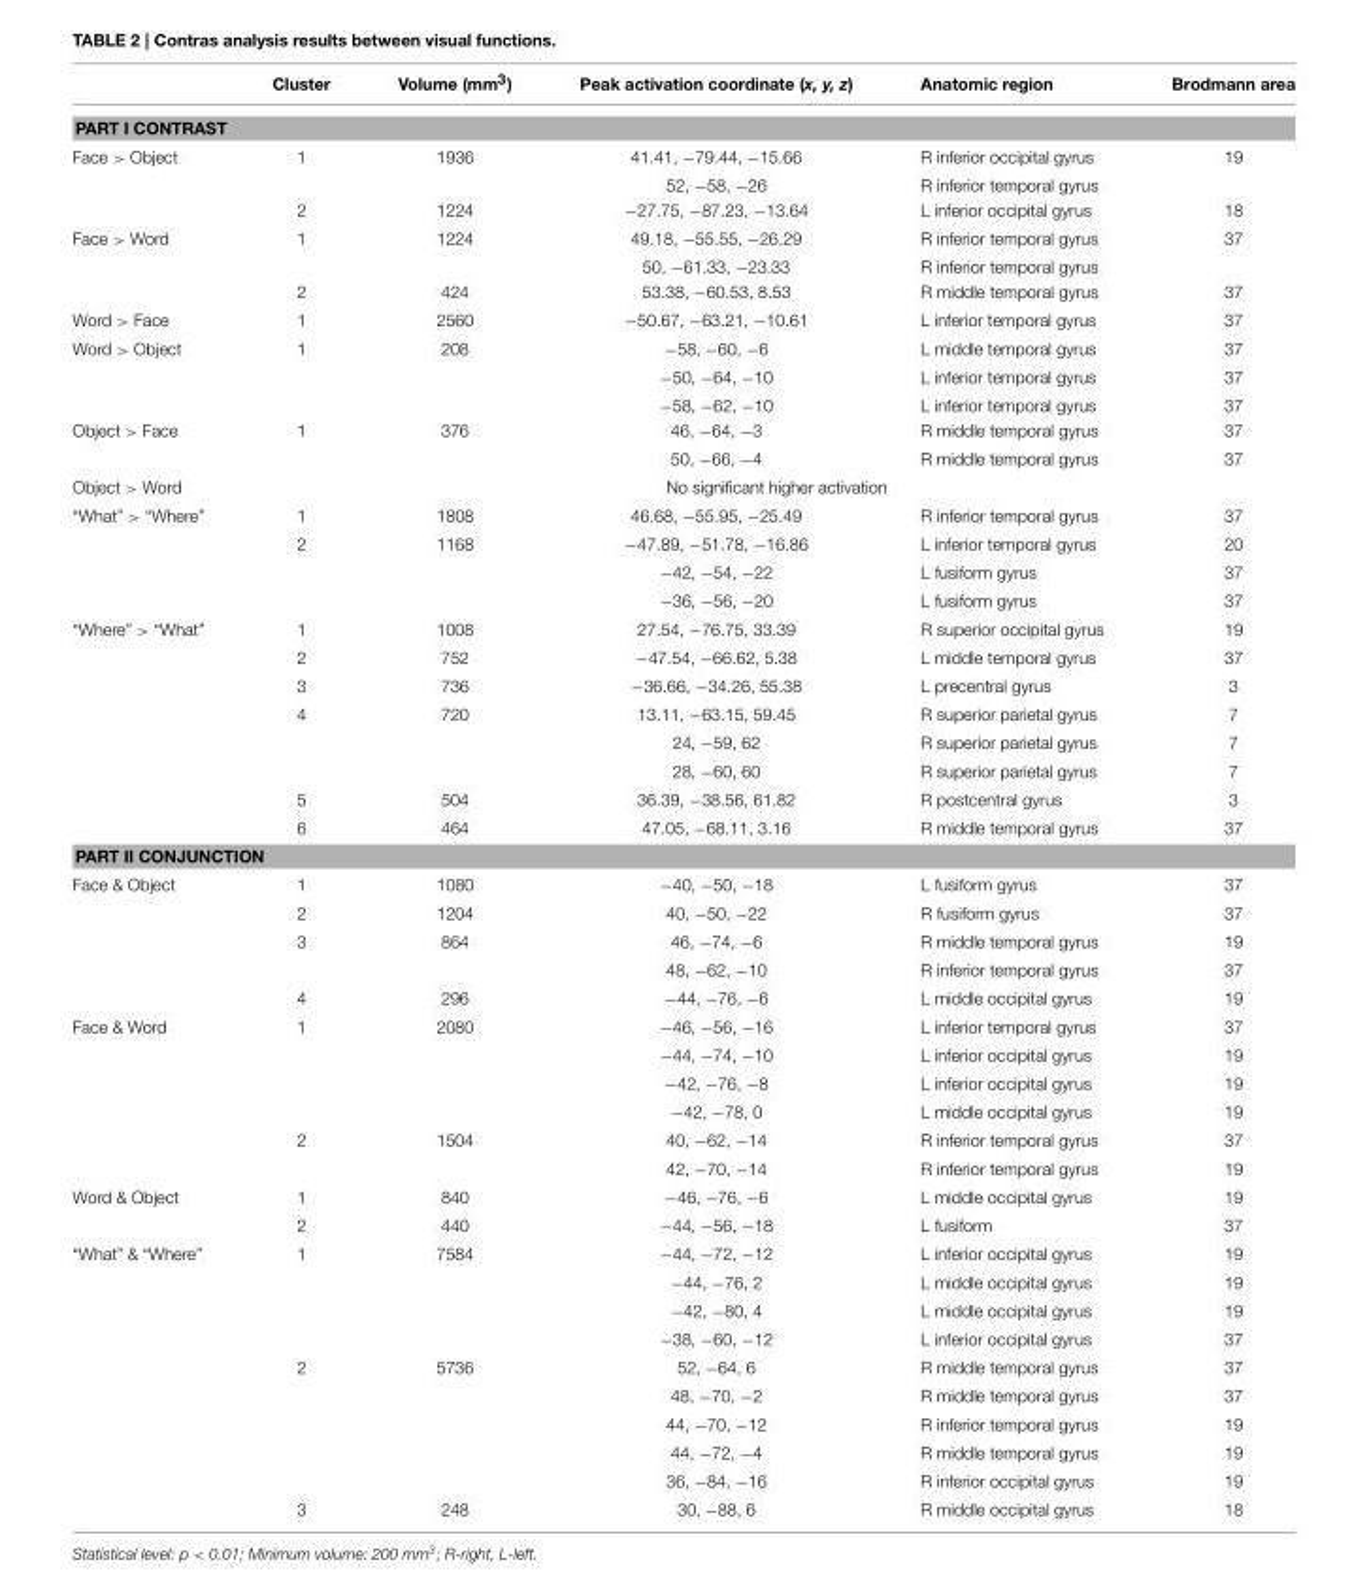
<table><thead><tr><td></td><td>Cluster</td><td>Volume (mm<sup>3</sup>)</td><td>Peak activation coordinate (x, y, z)</td><td>Anatomic region</td><td>Brodmann area</td></tr></thead><tbody><tr><td colspan="6">PART I CONTRAST</td></tr><tr><td rowspan="3">Face &gt; Object</td><td>1</td><td>1936</td><td>41.41, −79.44, −15.66</td><td>R inferior occipital gyrus</td><td>19</td></tr><tr><td></td><td></td><td>52, −58, −26</td><td>R inferior temporal gyrus</td><td></td></tr><tr><td>2</td><td>1224</td><td>−27.75, −87.23, −13.64</td><td>L inferior occipital gyrus</td><td>18</td></tr><tr><td rowspan="3">Face &gt; Word</td><td>1</td><td>1224</td><td>49.18, −55.55, −26.29</td><td>R inferior temporal gyrus</td><td>37</td></tr><tr><td></td><td></td><td>50, −61.33, −23.33</td><td>R inferior temporal gyrus</td><td></td></tr><tr><td>2</td><td>424</td><td>53.38, −60.53, 8.53</td><td>R middle temporal gyrus</td><td>37</td></tr><tr><td>Word &gt; Face</td><td>1</td><td>2560</td><td>−50.67, −63.21, −10.61</td><td>L inferior temporal gyrus</td><td>37</td></tr><tr><td rowspan="3">Word &gt; Object</td><td>1</td><td>208</td><td>−58, −60, −6</td><td>L middle temporal gyrus</td><td>37</td></tr><tr><td></td><td></td><td>−50, −64, −10</td><td>L inferior temporal gyrus</td><td>37</td></tr><tr><td></td><td></td><td>−58, −62, −10</td><td>L inferior temporal gyrus</td><td>37</td></tr><tr><td rowspan="2">Object &gt; Face</td><td>1</td><td>376</td><td>46, −64, −3</td><td>R middle temporal gyrus</td><td>37</td></tr><tr><td></td><td></td><td>50, −66, −4</td><td>R middle temporal gyrus</td><td>37</td></tr><tr><td>Object &gt; Word</td><td colspan="5">No significant higher activation</td></tr><tr><td rowspan="4">“What” &gt; “Where”</td><td>1</td><td>1808</td><td>46.68, −55.95, −25.49</td><td>R inferior temporal gyrus</td><td>37</td></tr><tr><td>2</td><td>1168</td><td>−47.89, −51.78, −16.86</td><td>L inferior temporal gyrus</td><td>20</td></tr><tr><td></td><td></td><td>−42, −54, −22</td><td>L fusiform gyrus</td><td>37</td></tr><tr><td></td><td></td><td>−36, −56, −20</td><td>L fusiform gyrus</td><td>37</td></tr><tr><td rowspan="8">“Where” &gt; “What”</td><td>1</td><td>1008</td><td>27.54, −76.75, 33.39</td><td>R superior occipital gyrus</td><td>19</td></tr><tr><td>2</td><td>752</td><td>−47.54, −66.62, 5.38</td><td>L middle temporal gyrus</td><td>37</td></tr><tr><td>3</td><td>736</td><td>−36.66, −34.26, 55.38</td><td>L precentral gyrus</td><td>3</td></tr><tr><td>4</td><td>720</td><td>13.11, −63.15, 59.45</td><td>R superior parietal gyrus</td><td>7</td></tr><tr><td></td><td></td><td>24, −59, 62</td><td>R superior parietal gyrus</td><td>7</td></tr><tr><td></td><td></td><td>28, −60, 60</td><td>R superior parietal gyrus</td><td>7</td></tr><tr><td>5</td><td>504</td><td>36.39, −38.56, 61.82</td><td>R postcentral gyrus</td><td>3</td></tr><tr><td>6</td><td>464</td><td>47.05, −68.11, 3.16</td><td>R middle temporal gyrus</td><td>37</td></tr><tr><td colspan="6">PART II CONJUNCTION</td></tr><tr><td rowspan="5">Face &amp; Object</td><td>1</td><td>1080</td><td>−40, −50, −18</td><td>L fusiform gyrus</td><td>37</td></tr><tr><td>2</td><td>1204</td><td>40, −50, −22</td><td>R fusiform gyrus</td><td>37</td></tr><tr><td>3</td><td>864</td><td>46, −74, −6</td><td>R middle temporal gyrus</td><td>19</td></tr><tr><td></td><td></td><td>48, −62, −10</td><td>R inferior temporal gyrus</td><td>37</td></tr><tr><td>4</td><td>296</td><td>−44, −76, −6</td><td>L middle occipital gyrus</td><td>19</td></tr><tr><td rowspan="6">Face &amp; Word</td><td>1</td><td>2080</td><td>−46, −56, −16</td><td>L inferior temporal gyrus</td><td>37</td></tr><tr><td></td><td></td><td>−44, −74, −10</td><td>L inferior occipital gyrus</td><td>19</td></tr><tr><td></td><td></td><td>−42, −76, −8</td><td>L inferior occipital gyrus</td><td>19</td></tr><tr><td></td><td></td><td>−42, −78, 0</td><td>L middle occipital gyrus</td><td>19</td></tr><tr><td>2</td><td>1504</td><td>40, −62, −14</td><td>R inferior temporal gyrus</td><td>37</td></tr><tr><td></td><td></td><td>42, −70, −14</td><td>R inferior temporal gyrus</td><td>19</td></tr><tr><td rowspan="2">Word &amp; Object</td><td>1</td><td>840</td><td>−46, −76, −6</td><td>L middle occipital gyrus</td><td>19</td></tr><tr><td>2</td><td>440</td><td>−44, −56, −18</td><td>L fusiform</td><td>37</td></tr><tr><td rowspan="10">“What” &amp; “Where”</td><td>1</td><td>7584</td><td>−44, −72, −12</td><td>L inferior occipital gyrus</td><td>19</td></tr><tr><td></td><td></td><td>−44, −76, 2</td><td>L middle occipital gyrus</td><td>19</td></tr><tr><td></td><td></td><td>−42, −80, 4</td><td>L middle occipital gyrus</td><td>19</td></tr><tr><td></td><td></td><td>−38, −60, −12</td><td>L inferior occipital gyrus</td><td>37</td></tr><tr><td>2</td><td>5736</td><td>52, −64, 6</td><td>R middle temporal gyrus</td><td>37</td></tr><tr><td></td><td></td><td>48, −70, −2</td><td>R middle temporal gyrus</td><td>37</td></tr><tr><td></td><td></td><td>44, −70, −12</td><td>R inferior temporal gyrus</td><td>19</td></tr><tr><td></td><td></td><td>44, −72, −4</td><td>R middle temporal gyrus</td><td>19</td></tr><tr><td></td><td></td><td>36, −84, −16</td><td>R inferior occipital gyrus</td><td>19</td></tr><tr><td>3</td><td>248</td><td>30, −88, 6</td><td>R middle occipital gyrus</td><td>18</td></tr></tbody></table>